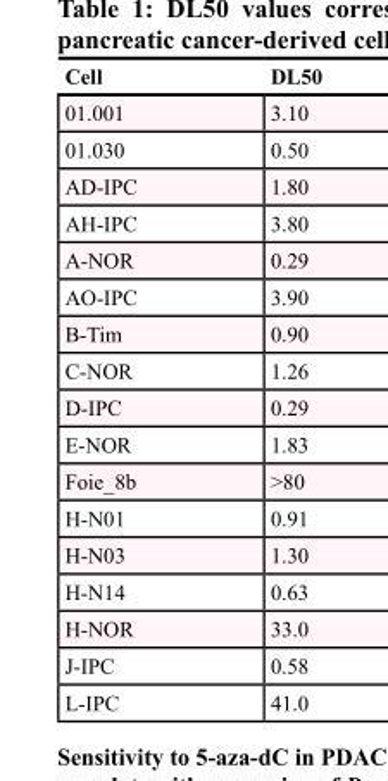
<table><thead><tr><td>Cell</td><td>DL50</td></tr></thead><tbody><tr><td>01.001</td><td>3.10</td></tr><tr><td>01.030</td><td>0.50</td></tr><tr><td>AD-IPC</td><td>1.80</td></tr><tr><td>AH-IPC</td><td>3.80</td></tr><tr><td>A-NOR</td><td>0.29</td></tr><tr><td>AO-IPC</td><td>3.90</td></tr><tr><td>B-Tim</td><td>0.90</td></tr><tr><td>C-NOR</td><td>1.26</td></tr><tr><td>D-IPC</td><td>0.29</td></tr><tr><td>E-NOR</td><td>1.83</td></tr><tr><td>Foie_8b</td><td>&gt;80</td></tr><tr><td>H-N01</td><td>0.91</td></tr><tr><td>H-N03</td><td>1.30</td></tr><tr><td>H-N14</td><td>0.63</td></tr><tr><td>H-NOR</td><td>33.0</td></tr><tr><td>J-IPC</td><td>0.58</td></tr><tr><td>L-IPC</td><td>41.0</td></tr></tbody></table>